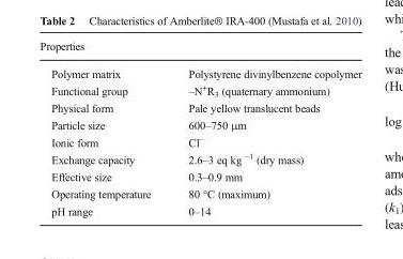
<table><thead><tr><td colspan="2">Properties</td></tr><tr><td>Polymer matrix</td><td>Polystyrene divinylbenzene copolymer</td></tr></thead><tbody><tr><td>Functional group</td><td>–N<sup>+</sup>R<sub>3</sub> (quaternary ammonium)</td></tr><tr><td>Physical form</td><td>Pale yellow translucent beads</td></tr><tr><td>Particle size</td><td>600–750 μm</td></tr><tr><td>Ionic form</td><td>Cl<sup>−</sup></td></tr><tr><td>Exchange capacity</td><td>2.6–3 eq kg <sup>−1</sup> (dry mass)</td></tr><tr><td>Effective size</td><td>0.3–0.9 mm</td></tr><tr><td>Operating temperature</td><td>80 °C (maximum)</td></tr><tr><td>pH range</td><td>0–14</td></tr></tbody></table>